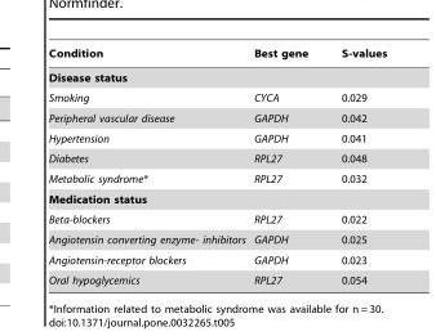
<table><thead><tr><td>Condition</td><td>Best gene</td><td>S-values</td></tr></thead><tbody><tr><td colspan="3">Disease status</td></tr><tr><td>Smoking</td><td>CYCA</td><td>0.029</td></tr><tr><td>Peripheral vascular disease</td><td>GAPDH</td><td>0.042</td></tr><tr><td>Hypertension</td><td>GAPDH</td><td>0.041</td></tr><tr><td>Diabetes</td><td>RPL27</td><td>0.048</td></tr><tr><td>Metabolic syndrome*</td><td>RPL27</td><td>0.032</td></tr><tr><td colspan="3">Medication status</td></tr><tr><td>Beta-blockers</td><td>RPL27</td><td>0.022</td></tr><tr><td>Angiotensin converting enzyme- inhibitors</td><td>GAPDH</td><td>0.025</td></tr><tr><td>Angiotensin-receptor blockers</td><td>GAPDH</td><td>0.023</td></tr><tr><td>Oral hypoglycemics</td><td>RPL27</td><td>0.054</td></tr></tbody></table>